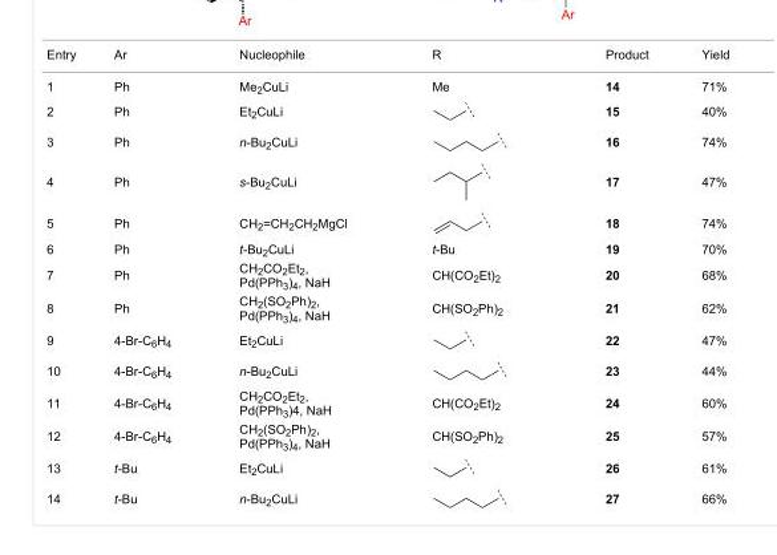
<table><tbody><tr><td>Entry</td><td>Ar</td><td>Nucleophile</td><td>R</td><td>Product</td><td>Yield</td></tr><tr><td>1</td><td>Ph</td><td>Me<sub>2</sub>CuLi</td><td>Me</td><td>14</td><td>71%</td></tr><tr><td>2</td><td>Ph</td><td>Et<sub>2</sub>CuLi</td><td></td><td>15</td><td>40%</td></tr><tr><td>3</td><td>Ph</td><td>n-Bu<sub>2</sub>CuLi</td><td></td><td>16</td><td>74%</td></tr><tr><td>4</td><td>Ph</td><td>s-Bu<sub>2</sub>CuLi</td><td></td><td>17</td><td>47%</td></tr><tr><td>5</td><td>Ph</td><td>CH<sub>2</sub>=CH<sub>2</sub>CH<sub>2</sub>MgCl</td><td></td><td>18</td><td>74%</td></tr><tr><td>6</td><td>Ph</td><td>t-Bu<sub>2</sub>CuLi</td><td>t-Bu</td><td>19</td><td>70%</td></tr><tr><td>7</td><td>Ph</td><td>CH<sub>2</sub>CO<sub>2</sub>Et<sub>2</sub>, Pd(PPh<sub>3</sub>)<sub>4</sub>, NaH</td><td>CH(CO<sub>2</sub>Et)<sub>2</sub></td><td>20</td><td>68%</td></tr><tr><td>8</td><td>Ph</td><td>CH<sub>2</sub>(SO<sub>2</sub>Ph)<sub>2</sub>, Pd(PPh<sub>3</sub>)<sub>4</sub>, NaH</td><td>CH(SO<sub>2</sub>Ph)<sub>2</sub></td><td>21</td><td>62%</td></tr><tr><td>9</td><td>4-Br-C<sub>6</sub>H<sub>4</sub></td><td>Et<sub>2</sub>CuLi</td><td></td><td>22</td><td>47%</td></tr><tr><td>10</td><td>4-Br-C<sub>6</sub>H<sub>4</sub></td><td>n-Bu<sub>2</sub>CuLi</td><td></td><td>23</td><td>44%</td></tr><tr><td>11</td><td>4-Br-C<sub>6</sub>H<sub>4</sub></td><td>CH<sub>2</sub>CO<sub>2</sub>Et<sub>2</sub>, Pd(PPh<sub>3</sub>)4, NaH</td><td>CH(CO<sub>2</sub>Et)<sub>2</sub></td><td>24</td><td>60%</td></tr><tr><td>12</td><td>4-Br-C<sub>6</sub>H<sub>4</sub></td><td>CH<sub>2</sub>(SO<sub>2</sub>Ph)<sub>2</sub>, Pd(PPh<sub>3</sub>)<sub>4</sub>, NaH</td><td>CH(SO<sub>2</sub>Ph)<sub>2</sub></td><td>25</td><td>57%</td></tr><tr><td>13</td><td>t-Bu</td><td>Et<sub>2</sub>CuLi</td><td></td><td>26</td><td>61%</td></tr><tr><td>14</td><td>t-Bu</td><td>n-Bu<sub>2</sub>CuLi</td><td></td><td>27</td><td>66%</td></tr></tbody></table>